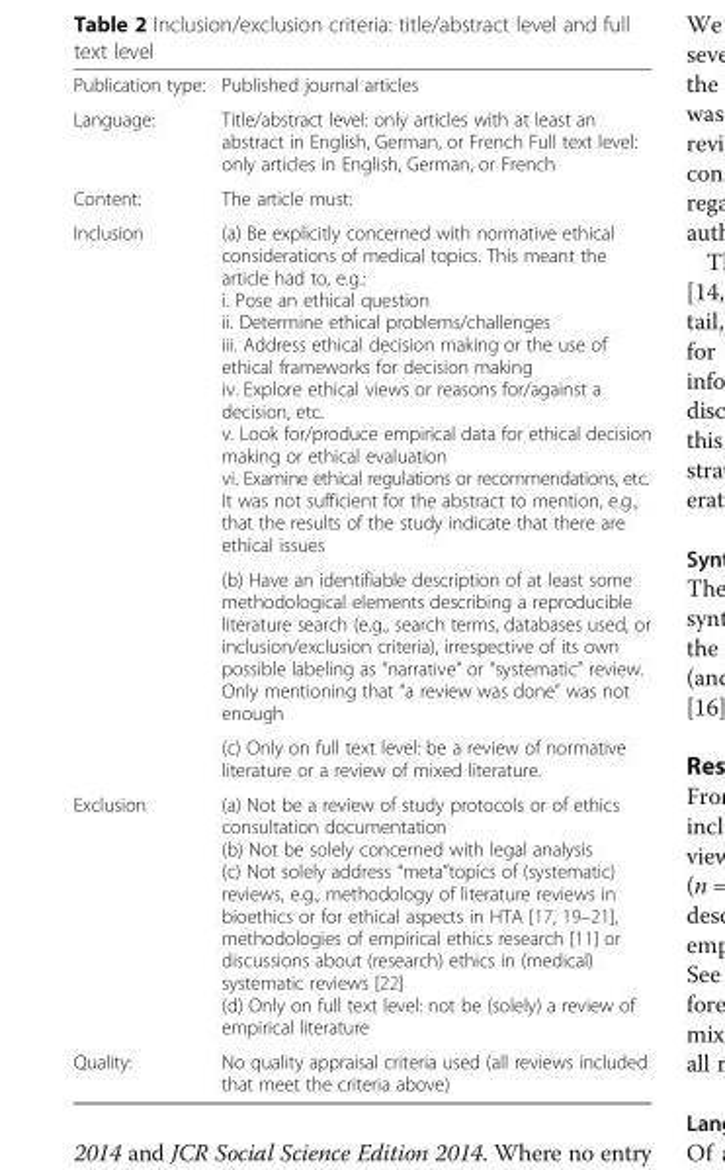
<table><tbody><tr><td>Publication type:</td><td>Published journal articles</td></tr><tr><td>Language:</td><td>Title/abstract level: only articles with at least an abstract in English, German, or French Full text level: only articles in English, German, or French</td></tr><tr><td>Content:</td><td>The article must:</td></tr><tr><td rowspan="3">Inclusion</td><td>(a) Be explicitly concerned with normative ethical considerations of medical topics. This meant the article had to, e.g.: i. Pose an ethical question ii. Determine ethical problems/challenges iii. Address ethical decision making or the use of ethical frameworks for decision making iv. Explore ethical views or reasons for/against a decision, etc. v. Look for/produce empirical data for ethical decision making or ethical evaluation vi. Examine ethical regulations or recommendations, etc. It was not sufficient for the abstract to mention, e.g., that the results of the study indicate that there are ethical issues</td></tr><tr><td>(b) Have an identifiable description of at least some methodological elements describing a reproducible literature search (e.g., search terms, databases used, or inclusion/exclusion criteria), irrespective of its own possible labeling as “narrative” or “systematic” review. Only mentioning that “a review was done” was not enough</td></tr><tr><td>(c) Only on full text level: be a review of normative literature or a review of mixed literature.</td></tr><tr><td>Exclusion</td><td>(a) Not be a review of study protocols or of ethics consultation documentation (b) Not be solely concerned with legal analysis (c) Not solely address “meta”topics of (systematic) reviews, e.g., methodology of literature reviews in bioethics or for ethical aspects in HTA [17, 19–21], methodologies of empirical ethics research [11] or discussions about (research) ethics in (medical) systematic reviews [22] (d) Only on full text level: not be (solely) a review of empirical literature</td></tr><tr><td>Quality:</td><td>No quality appraisal criteria used (all reviews included that meet the criteria above)</td></tr></tbody></table>